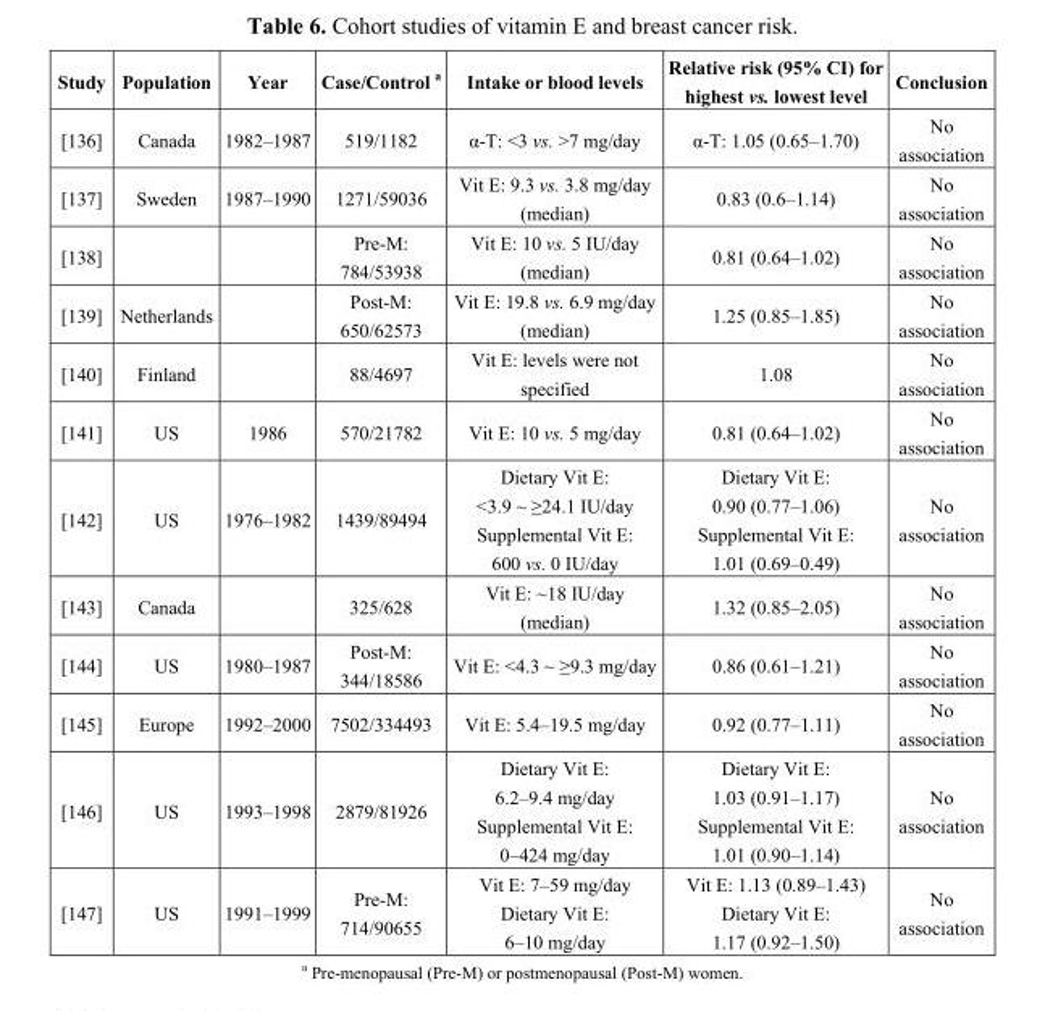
<table><thead><tr><td>Study</td><td>Population</td><td>Year</td><td>Case/Control <sup>a</sup></td><td>Intake or blood levels</td><td>Relative risk (95% CI) for highest vs. lowest level</td><td>Conclusion</td></tr></thead><tbody><tr><td>[136]</td><td>Canada</td><td>1982–1987</td><td>519/1182</td><td>α-T: &lt;3 vs. &gt;7 mg/day</td><td>α-T: 1.05 (0.65–1.70)</td><td>No association</td></tr><tr><td>[137]</td><td>Sweden</td><td>1987–1990</td><td>1271/59036</td><td>Vit E: 9.3 vs. 3.8 mg/day (median)</td><td>0.83 (0.6–1.14)</td><td>No association</td></tr><tr><td>[138]</td><td></td><td></td><td>Pre-M: 784/53938</td><td>Vit E: 10 vs. 5 IU/day (median)</td><td>0.81 (0.64–1.02)</td><td>No association</td></tr><tr><td>[139]</td><td>Netherlands</td><td></td><td>Post-M: 650/62573</td><td>Vit E: 19.8 vs. 6.9 mg/day (median)</td><td>1.25 (0.85–1.85)</td><td>No association</td></tr><tr><td>[140]</td><td>Finland</td><td></td><td>88/4697</td><td>Vit E: levels were not specified</td><td>1.08</td><td>No association</td></tr><tr><td>[141]</td><td>US</td><td>1986</td><td>570/21782</td><td>Vit E: 10 vs. 5 mg/day</td><td>0.81 (0.64–1.02)</td><td>No association</td></tr><tr><td rowspan="2">[142]</td><td rowspan="2">US</td><td rowspan="2">1976–1982</td><td rowspan="2">1439/89494</td><td>Dietary Vit E: &lt;3.9 ~ ≥24.1 IU/day</td><td>Dietary Vit E: 0.90 (0.77–1.06)</td><td rowspan="2">No association</td></tr><tr><td>Supplemental Vit E: 600 vs. 0 IU/day</td><td>Supplemental Vit E: 1.01 (0.69–0.49)</td></tr><tr><td>[143]</td><td>Canada</td><td></td><td>325/628</td><td>Vit E: ~18 IU/day (median)</td><td>1.32 (0.85–2.05)</td><td>No association</td></tr><tr><td>[144]</td><td>US</td><td>1980–1987</td><td>Post-M: 344/18586</td><td>Vit E: &lt;4.3 ~ ≥9.3 mg/day</td><td>0.86 (0.61–1.21)</td><td>No association</td></tr><tr><td>[145]</td><td>Europe</td><td>1992–2000</td><td>7502/334493</td><td>Vit E: 5.4–19.5 mg/day</td><td>0.92 (0.77–1.11)</td><td>No association</td></tr><tr><td rowspan="2">[146]</td><td rowspan="2">US</td><td rowspan="2">1993–1998</td><td rowspan="2">2879/81926</td><td>Dietary Vit E: 6.2–9.4 mg/day</td><td>Dietary Vit E: 1.03 (0.91–1.17)</td><td rowspan="2">No association</td></tr><tr><td>Supplemental Vit E: 0–424 mg/day</td><td>Supplemental Vit E: 1.01 (0.90–1.14)</td></tr><tr><td rowspan="2">[147]</td><td rowspan="2">US</td><td rowspan="2">1991–1999</td><td rowspan="2">Pre-M: 714/90655</td><td>Vit E: 7–59 mg/day</td><td>Vit E: 1.13 (0.89–1.43)</td><td rowspan="2">No association</td></tr><tr><td>Dietary Vit E: 6–10 mg/day</td><td>Dietary Vit E: 1.17 (0.92–1.50)</td></tr></tbody></table>